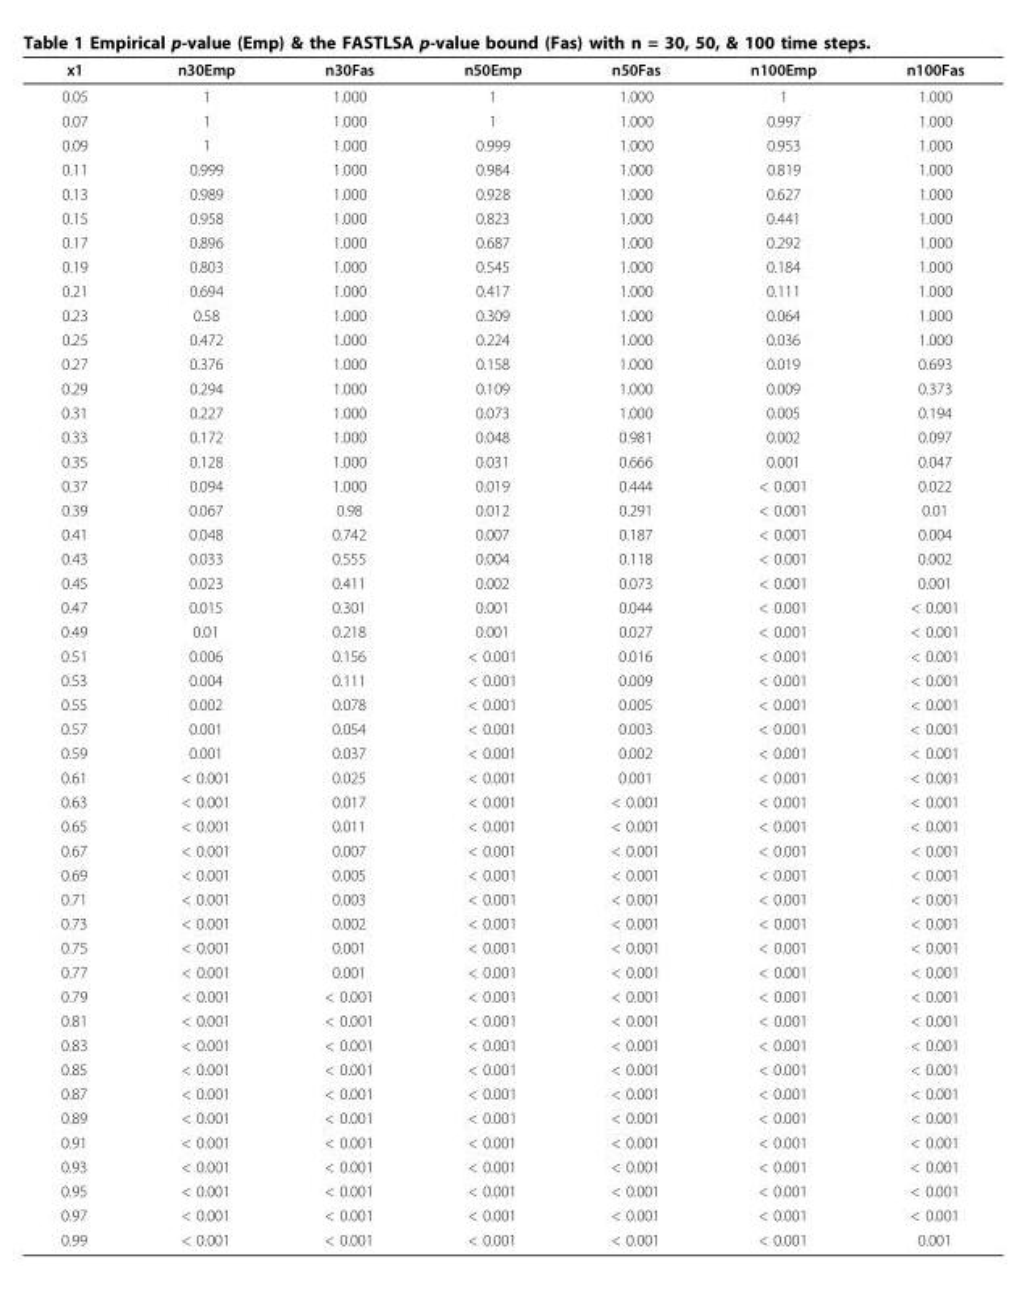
<table><thead><tr><td>x1</td><td>n30Emp</td><td>n30Fas</td><td>n50Emp</td><td>n50Fas</td><td>n100Emp</td><td>n100Fas</td></tr></thead><tbody><tr><td>0.05</td><td>1</td><td>1.000</td><td>1</td><td>1.000</td><td>1</td><td>1.000</td></tr><tr><td>0.07</td><td>1</td><td>1.000</td><td>1</td><td>1.000</td><td>0.997</td><td>1.000</td></tr><tr><td>0.09</td><td>1</td><td>1.000</td><td>0.999</td><td>1.000</td><td>0.953</td><td>1.000</td></tr><tr><td>0.11</td><td>0.999</td><td>1.000</td><td>0.984</td><td>1.000</td><td>0.819</td><td>1.000</td></tr><tr><td>0.13</td><td>0.989</td><td>1.000</td><td>0.928</td><td>1.000</td><td>0.627</td><td>1.000</td></tr><tr><td>0.15</td><td>0.958</td><td>1.000</td><td>0.823</td><td>1.000</td><td>0.441</td><td>1.000</td></tr><tr><td>0.17</td><td>0.896</td><td>1.000</td><td>0.687</td><td>1.000</td><td>0.292</td><td>1.000</td></tr><tr><td>0.19</td><td>0.803</td><td>1.000</td><td>0.545</td><td>1.000</td><td>0.184</td><td>1.000</td></tr><tr><td>0.21</td><td>0.694</td><td>1.000</td><td>0.417</td><td>1.000</td><td>0.111</td><td>1.000</td></tr><tr><td>0.23</td><td>0.58</td><td>1.000</td><td>0.309</td><td>1.000</td><td>0.064</td><td>1.000</td></tr><tr><td>0.25</td><td>0.472</td><td>1.000</td><td>0.224</td><td>1.000</td><td>0.036</td><td>1.000</td></tr><tr><td>0.27</td><td>0.376</td><td>1.000</td><td>0.158</td><td>1.000</td><td>0.019</td><td>0.693</td></tr><tr><td>0.29</td><td>0.294</td><td>1.000</td><td>0.109</td><td>1.000</td><td>0.009</td><td>0.373</td></tr><tr><td>0.31</td><td>0.227</td><td>1.000</td><td>0.073</td><td>1.000</td><td>0.005</td><td>0.194</td></tr><tr><td>0.33</td><td>0.172</td><td>1.000</td><td>0.048</td><td>0.981</td><td>0.002</td><td>0.097</td></tr><tr><td>0.35</td><td>0.128</td><td>1.000</td><td>0.031</td><td>0.666</td><td>0.001</td><td>0.047</td></tr><tr><td>0.37</td><td>0.094</td><td>1.000</td><td>0.019</td><td>0.444</td><td>&lt; 0.001</td><td>0.022</td></tr><tr><td>0.39</td><td>0.067</td><td>0.98</td><td>0.012</td><td>0.291</td><td>&lt; 0.001</td><td>0.01</td></tr><tr><td>0.41</td><td>0.048</td><td>0.742</td><td>0.007</td><td>0.187</td><td>&lt; 0.001</td><td>0.004</td></tr><tr><td>0.43</td><td>0.033</td><td>0.555</td><td>0.004</td><td>0.118</td><td>&lt; 0.001</td><td>0.002</td></tr><tr><td>0.45</td><td>0.023</td><td>0.411</td><td>0.002</td><td>0.073</td><td>&lt; 0.001</td><td>0.001</td></tr><tr><td>0.47</td><td>0.015</td><td>0.301</td><td>0.001</td><td>0.044</td><td>&lt; 0.001</td><td>&lt; 0.001</td></tr><tr><td>0.49</td><td>0.01</td><td>0.218</td><td>0.001</td><td>0.027</td><td>&lt; 0.001</td><td>&lt; 0.001</td></tr><tr><td>0.51</td><td>0.006</td><td>0.156</td><td>&lt; 0.001</td><td>0.016</td><td>&lt; 0.001</td><td>&lt; 0.001</td></tr><tr><td>0.53</td><td>0.004</td><td>0.111</td><td>&lt; 0.001</td><td>0.009</td><td>&lt; 0.001</td><td>&lt; 0.001</td></tr><tr><td>0.55</td><td>0.002</td><td>0.078</td><td>&lt; 0.001</td><td>0.005</td><td>&lt; 0.001</td><td>&lt; 0.001</td></tr><tr><td>0.57</td><td>0.001</td><td>0.054</td><td>&lt; 0.001</td><td>0.003</td><td>&lt; 0.001</td><td>&lt; 0.001</td></tr><tr><td>0.59</td><td>0.001</td><td>0.037</td><td>&lt; 0.001</td><td>0.002</td><td>&lt; 0.001</td><td>&lt; 0.001</td></tr><tr><td>0.61</td><td>&lt; 0.001</td><td>0.025</td><td>&lt; 0.001</td><td>0.001</td><td>&lt; 0.001</td><td>&lt; 0.001</td></tr><tr><td>0.63</td><td>&lt; 0.001</td><td>0.017</td><td>&lt; 0.001</td><td>&lt; 0.001</td><td>&lt; 0.001</td><td>&lt; 0.001</td></tr><tr><td>0.65</td><td>&lt; 0.001</td><td>0.011</td><td>&lt; 0.001</td><td>&lt; 0.001</td><td>&lt; 0.001</td><td>&lt; 0.001</td></tr><tr><td>0.67</td><td>&lt; 0.001</td><td>0.007</td><td>&lt; 0.001</td><td>&lt; 0.001</td><td>&lt; 0.001</td><td>&lt; 0.001</td></tr><tr><td>0.69</td><td>&lt; 0.001</td><td>0.005</td><td>&lt; 0.001</td><td>&lt; 0.001</td><td>&lt; 0.001</td><td>&lt; 0.001</td></tr><tr><td>0.71</td><td>&lt; 0.001</td><td>0.003</td><td>&lt; 0.001</td><td>&lt; 0.001</td><td>&lt; 0.001</td><td>&lt; 0.001</td></tr><tr><td>0.73</td><td>&lt; 0.001</td><td>0.002</td><td>&lt; 0.001</td><td>&lt; 0.001</td><td>&lt; 0.001</td><td>&lt; 0.001</td></tr><tr><td>0.75</td><td>&lt; 0.001</td><td>0.001</td><td>&lt; 0.001</td><td>&lt; 0.001</td><td>&lt; 0.001</td><td>&lt; 0.001</td></tr><tr><td>0.77</td><td>&lt; 0.001</td><td>0.001</td><td>&lt; 0.001</td><td>&lt; 0.001</td><td>&lt; 0.001</td><td>&lt; 0.001</td></tr><tr><td>0.79</td><td>&lt; 0.001</td><td>&lt; 0.001</td><td>&lt; 0.001</td><td>&lt; 0.001</td><td>&lt; 0.001</td><td>&lt; 0.001</td></tr><tr><td>0.81</td><td>&lt; 0.001</td><td>&lt; 0.001</td><td>&lt; 0.001</td><td>&lt; 0.001</td><td>&lt; 0.001</td><td>&lt; 0.001</td></tr><tr><td>0.83</td><td>&lt; 0.001</td><td>&lt; 0.001</td><td>&lt; 0.001</td><td>&lt; 0.001</td><td>&lt; 0.001</td><td>&lt; 0.001</td></tr><tr><td>0.85</td><td>&lt; 0.001</td><td>&lt; 0.001</td><td>&lt; 0.001</td><td>&lt; 0.001</td><td>&lt; 0.001</td><td>&lt; 0.001</td></tr><tr><td>0.87</td><td>&lt; 0.001</td><td>&lt; 0.001</td><td>&lt; 0.001</td><td>&lt; 0.001</td><td>&lt; 0.001</td><td>&lt; 0.001</td></tr><tr><td>0.89</td><td>&lt; 0.001</td><td>&lt; 0.001</td><td>&lt; 0.001</td><td>&lt; 0.001</td><td>&lt; 0.001</td><td>&lt; 0.001</td></tr><tr><td>0.91</td><td>&lt; 0.001</td><td>&lt; 0.001</td><td>&lt; 0.001</td><td>&lt; 0.001</td><td>&lt; 0.001</td><td>&lt; 0.001</td></tr><tr><td>0.93</td><td>&lt; 0.001</td><td>&lt; 0.001</td><td>&lt; 0.001</td><td>&lt; 0.001</td><td>&lt; 0.001</td><td>&lt; 0.001</td></tr><tr><td>0.95</td><td>&lt; 0.001</td><td>&lt; 0.001</td><td>&lt; 0.001</td><td>&lt; 0.001</td><td>&lt; 0.001</td><td>&lt; 0.001</td></tr><tr><td>0.97</td><td>&lt; 0.001</td><td>&lt; 0.001</td><td>&lt; 0.001</td><td>&lt; 0.001</td><td>&lt; 0.001</td><td>&lt; 0.001</td></tr><tr><td>0.99</td><td>&lt; 0.001</td><td>&lt; 0.001</td><td>&lt; 0.001</td><td>&lt; 0.001</td><td>&lt; 0.001</td><td>0.001</td></tr></tbody></table>